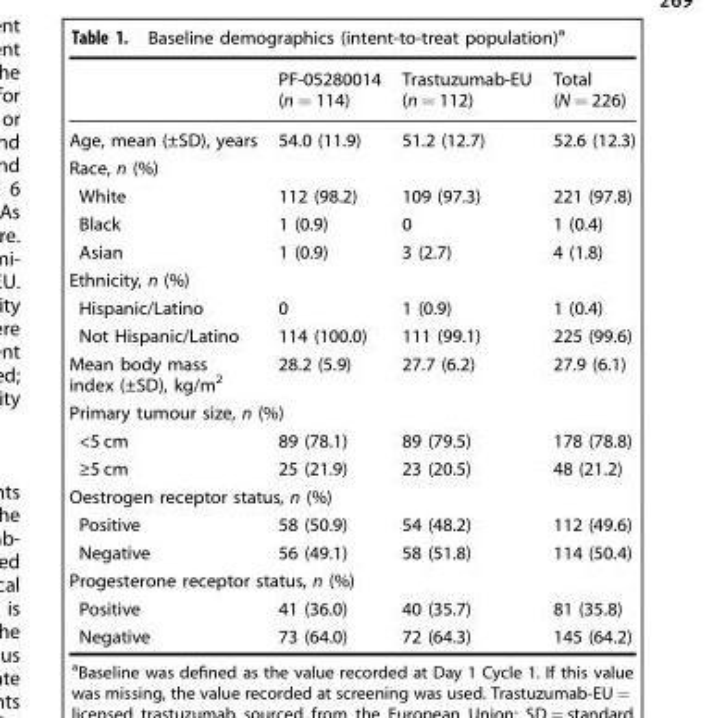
<table><thead><tr><td></td><td>PF-05280014 (n = 114)</td><td>Trastuzumab-EU (n = 112)</td><td>Total (N = 226)</td></tr></thead><tbody><tr><td>Age, mean (±SD), years</td><td>54.0 (11.9)</td><td>51.2 (12.7)</td><td>52.6 (12.3)</td></tr><tr><td colspan="4">Race, n (%)</td></tr><tr><td>White</td><td>112 (98.2)</td><td>109 (97.3)</td><td>221 (97.8)</td></tr><tr><td>Black</td><td>1 (0.9)</td><td>0</td><td>1 (0.4)</td></tr><tr><td>Asian</td><td>1 (0.9)</td><td>3 (2.7)</td><td>4 (1.8)</td></tr><tr><td colspan="4">Ethnicity, n (%)</td></tr><tr><td>Hispanic/Latino</td><td>0</td><td>1 (0.9)</td><td>1 (0.4)</td></tr><tr><td>Not Hispanic/Latino</td><td>114 (100.0)</td><td>111 (99.1)</td><td>225 (99.6)</td></tr><tr><td>Mean body mass index (±SD), kg/m<sup>2</sup></td><td>28.2 (5.9)</td><td>27.7 (6.2)</td><td>27.9 (6.1)</td></tr><tr><td colspan="4">Primary tumour size, n (%)</td></tr><tr><td>&lt;5 cm</td><td>89 (78.1)</td><td>89 (79.5)</td><td>178 (78.8)</td></tr><tr><td>≥5 cm</td><td>25 (21.9)</td><td>23 (20.5)</td><td>48 (21.2)</td></tr><tr><td colspan="4">Oestrogen receptor status, n (%)</td></tr><tr><td>Positive</td><td>58 (50.9)</td><td>54 (48.2)</td><td>112 (49.6)</td></tr><tr><td>Negative</td><td>56 (49.1)</td><td>58 (51.8)</td><td>114 (50.4)</td></tr><tr><td colspan="4">Progesterone receptor status, n (%)</td></tr><tr><td>Positive</td><td>41 (36.0)</td><td>40 (35.7)</td><td>81 (35.8)</td></tr><tr><td>Negative</td><td>73 (64.0)</td><td>72 (64.3)</td><td>145 (64.2)</td></tr></tbody></table>